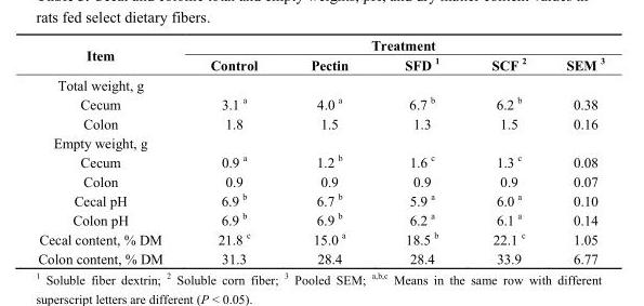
<table><thead><tr><td rowspan="2">Item</td><td colspan="5">Treatment</td></tr><tr><td>Control</td><td>Pectin</td><td>SFD <sup>1</sup></td><td>SCF <sup>2</sup></td><td>SEM <sup>3</sup></td></tr></thead><tbody><tr><td colspan="6">Total weight, g</td></tr><tr><td>Cecum</td><td>3.1 <sup>a</sup></td><td>4.0 <sup>a</sup></td><td>6.7 <sup>b</sup></td><td>6.2 <sup>b</sup></td><td>0.38</td></tr><tr><td>Colon</td><td>1.8</td><td>1.5</td><td>1.3</td><td>1.5</td><td>0.16</td></tr><tr><td colspan="6">Empty weight, g</td></tr><tr><td>Cecum</td><td>0.9 <sup>a</sup></td><td>1.2 <sup>b</sup></td><td>1.6 <sup>c</sup></td><td>1.3 <sup>c</sup></td><td>0.08</td></tr><tr><td>Colon</td><td>0.9</td><td>0.9</td><td>0.9</td><td>0.9</td><td>0.07</td></tr><tr><td>Cecal pH</td><td>6.9 <sup>b</sup></td><td>6.7 <sup>b</sup></td><td>5.9 <sup>a</sup></td><td>6.0 <sup>a</sup></td><td>0.10</td></tr><tr><td>Colon pH</td><td>6.9 <sup>b</sup></td><td>6.9 <sup>b</sup></td><td>6.2 <sup>a</sup></td><td>6.1 <sup>a</sup></td><td>0.14</td></tr><tr><td>Cecal content, % DM</td><td>21.8 <sup>c</sup></td><td>15.0 <sup>a</sup></td><td>18.5 <sup>b</sup></td><td>22.1 <sup>c</sup></td><td>1.05</td></tr><tr><td>Colon content, % DM</td><td>31.3</td><td>28.4</td><td>28.4</td><td>33.9</td><td>6.77</td></tr></tbody></table>